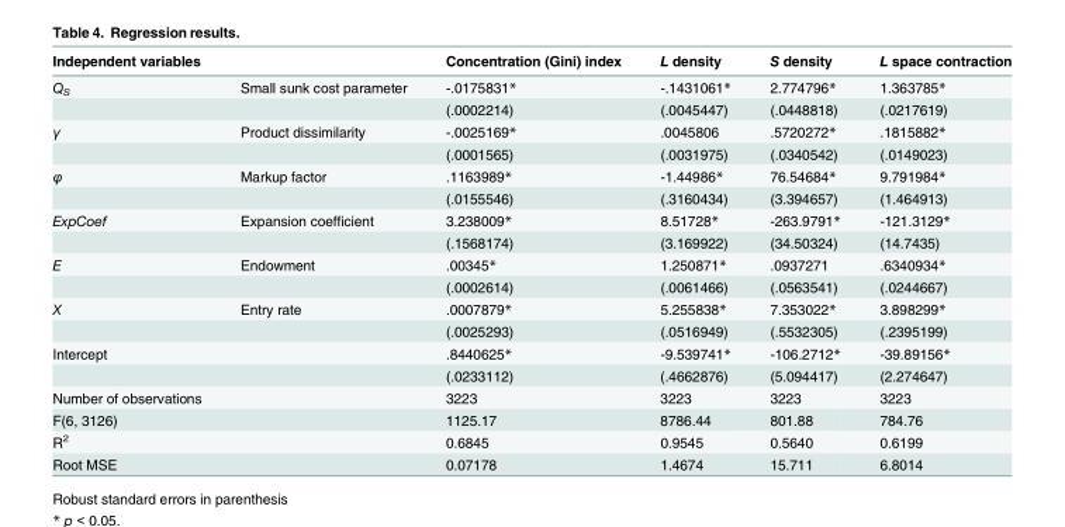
<table><thead><tr><td colspan="2">Independent variables</td><td rowspan="2">Concentration (Gini) index -.0175831*</td><td rowspan="2">L density -.1431061*</td><td rowspan="2">S density 2.774796*</td><td rowspan="2">L space contraction 1.363785*</td></tr><tr><td>Q<sub>S</sub></td><td>Small sunk cost parameter</td></tr></thead><tbody><tr><td></td><td></td><td>(.0002214)</td><td>(.0045447)</td><td>(.0448818)</td><td>(.0217619)</td></tr><tr><td rowspan="2">γ</td><td>Product dissimilarity</td><td>-.0025169*</td><td>.0045806</td><td>.5720272*</td><td>.1815882*</td></tr><tr><td></td><td>(.0001565)</td><td>(.0031975)</td><td>(.0340542)</td><td>(.0149023)</td></tr><tr><td rowspan="2">φ</td><td>Markup factor</td><td>.1163989*</td><td>-1.44986*</td><td>76.54684*</td><td>9.791984*</td></tr><tr><td></td><td>(.0155546)</td><td>(.3160434)</td><td>(3.394657)</td><td>(1.464913)</td></tr><tr><td rowspan="2">ExpCoef</td><td>Expansion coefficient</td><td>3.238009*</td><td>8.51728*</td><td>-263.9791*</td><td>-121.3129*</td></tr><tr><td></td><td>(.1568174)</td><td>(3.169922)</td><td>(34.50324)</td><td>(14.7435)</td></tr><tr><td rowspan="2">E</td><td>Endowment</td><td>.00345*</td><td>1.250871*</td><td>.0937271</td><td>.6340934*</td></tr><tr><td></td><td>(.0002614)</td><td>(.0061466)</td><td>(.0563541)</td><td>(.0244667)</td></tr><tr><td rowspan="2">X</td><td>Entry rate</td><td>.0007879*</td><td>5.255838*</td><td>7.353022*</td><td>3.898299*</td></tr><tr><td></td><td>(.0025293)</td><td>(.0516949)</td><td>(.5532305)</td><td>(.2395199)</td></tr><tr><td rowspan="2">Intercept</td><td></td><td>.8440625*</td><td>-9.539741*</td><td>-106.2712*</td><td>-39.89156*</td></tr><tr><td></td><td>(.0233112)</td><td>(.4662876)</td><td>(5.094417)</td><td>(2.274647)</td></tr><tr><td>Number of observations</td><td></td><td>3223</td><td>3223</td><td>3223</td><td>3223</td></tr><tr><td>F(6, 3126)</td><td></td><td>1125.17</td><td>8786.44</td><td>801.88</td><td>784.76</td></tr><tr><td>R<sup>2</sup></td><td></td><td>0.6845</td><td>0.9545</td><td>0.5640</td><td>0.6199</td></tr><tr><td>Root MSE</td><td></td><td>0.07178</td><td>1.4674</td><td>15.711</td><td>6.8014</td></tr></tbody></table>